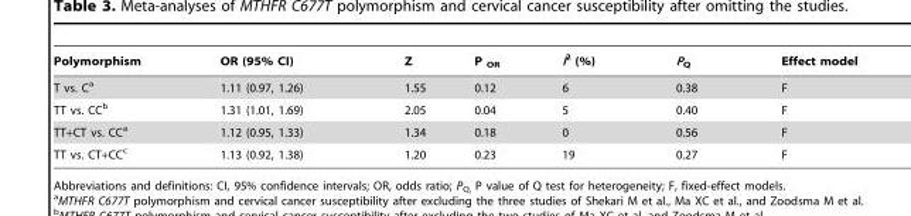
<table><thead><tr><td>Polymorphism</td><td>OR (95% CI)</td><td>Z</td><td>P <sub>OR</sub></td><td>I<sup>2</sup> (%)</td><td>P<sub>Q</sub></td><td>Effect model</td></tr></thead><tbody><tr><td>T vs. C<sup>a</sup></td><td>1.11 (0.97, 1.26)</td><td>1.55</td><td>0.12</td><td>6</td><td>0.38</td><td>F</td></tr><tr><td>TT vs. CC<sup>b</sup></td><td>1.31 (1.01, 1.69)</td><td>2.05</td><td>0.04</td><td>5</td><td>0.40</td><td>F</td></tr><tr><td>TT+CT vs. CC<sup>a</sup></td><td>1.12 (0.95, 1.33)</td><td>1.34</td><td>0.18</td><td>0</td><td>0.56</td><td>F</td></tr><tr><td>TT vs. CT+CC<sup>c</sup></td><td>1.13 (0.92, 1.38)</td><td>1.20</td><td>0.23</td><td>19</td><td>0.27</td><td>F</td></tr></tbody></table>